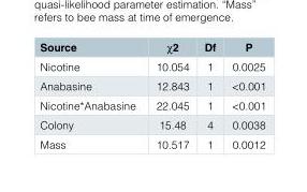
<table><thead><tr><td>Source</td><td>χ2</td><td>Df</td><td>P</td></tr></thead><tbody><tr><td>Nicotine</td><td>10.054</td><td>1</td><td>0.0025</td></tr><tr><td>Anabasine</td><td>12.843</td><td>1</td><td>&lt;0.001</td></tr><tr><td>Nicotine*Anabasine</td><td>22.045</td><td>1</td><td>&lt;0.001</td></tr><tr><td>Colony</td><td>15.48</td><td>4</td><td>0.0038</td></tr><tr><td>Mass</td><td>10.517</td><td>1</td><td>0.0012</td></tr></tbody></table>